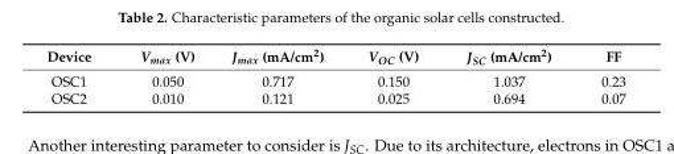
<table><thead><tr><td>Device</td><td>Vmax (V)</td><td>Jmax (mA/cm2)</td><td>VOC (V)</td><td>JSC (mA/cm2)</td><td>FF</td></tr></thead><tbody><tr><td>OSC1</td><td>0.050</td><td>0.717</td><td>0.150</td><td>1.037</td><td>0.23</td></tr><tr><td>OSC2</td><td>0.010</td><td>0.121</td><td>0.025</td><td>0.694</td><td>0.07</td></tr></tbody></table>